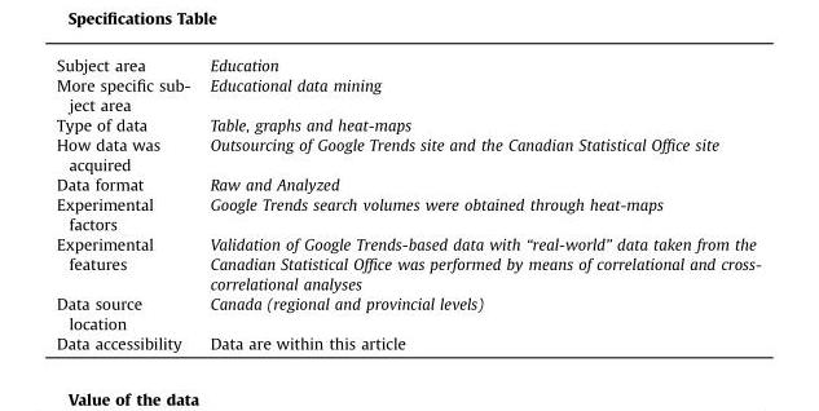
<table><thead><tr><td>Subject area</td><td>Education</td></tr></thead><tbody><tr><td>More specific sub- ject area</td><td>Educational data mining</td></tr><tr><td>Type of data</td><td>Table, graphs and heat-maps</td></tr><tr><td>How data was acquired</td><td>Outsourcing of Google Trends site and the Canadian Statistical Office site</td></tr><tr><td>Data format</td><td>Raw and Analyzed</td></tr><tr><td>Experimental factors</td><td>Google Trends search volumes were obtained through heat-maps</td></tr><tr><td>Experimental features</td><td>Validation of Google Trends-based data with “real-world” data taken from the Canadian Statistical Office was performed by means of correlational and cross- correlational analyses</td></tr><tr><td>Data source location</td><td>Canada (regional and provincial levels)</td></tr><tr><td>Data accessibility</td><td>Data are within this article</td></tr></tbody></table>